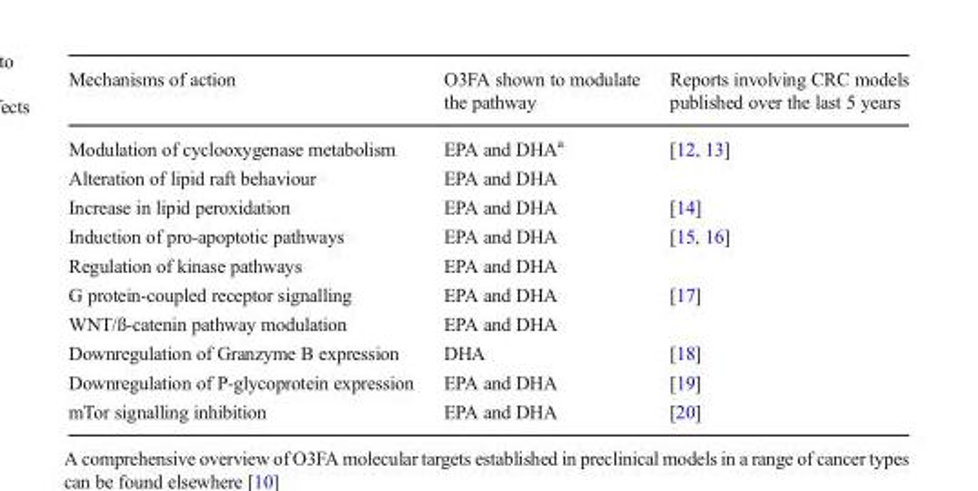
<table><thead><tr><td>Mechanisms of action</td><td>O3FA shown to modulate the pathway</td><td>Reports involving CRC models published over the last 5 years</td></tr></thead><tbody><tr><td>Modulation of cyclooxygenase metabolism</td><td>EPA and DHA<sup>a</sup></td><td>[12, 13]</td></tr><tr><td>Alteration of lipid raft behaviour</td><td>EPA and DHA</td><td></td></tr><tr><td>Increase in lipid peroxidation</td><td>EPA and DHA</td><td>[14]</td></tr><tr><td>Induction of pro-apoptotic pathways</td><td>EPA and DHA</td><td>[15, 16]</td></tr><tr><td>Regulation of kinase pathways</td><td>EPA and DHA</td><td></td></tr><tr><td>G protein-coupled receptor signalling</td><td>EPA and DHA</td><td>[17]</td></tr><tr><td>WNT/ß-catenin pathway modulation</td><td>EPA and DHA</td><td></td></tr><tr><td>Downregulation of Granzyme B expression</td><td>DHA</td><td>[18]</td></tr><tr><td>Downregulation of P-glycoprotein expression</td><td>EPA and DHA</td><td>[19]</td></tr><tr><td>mTor signalling inhibition</td><td>EPA and DHA</td><td>[20]</td></tr></tbody></table>